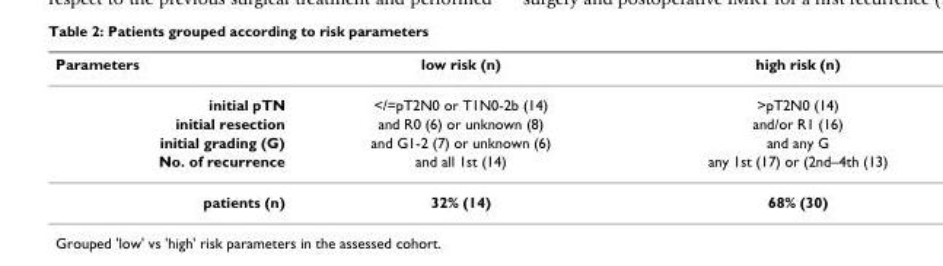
<table><thead><tr><td>Parameters</td><td>low risk (n)</td><td>high risk (n)</td></tr></thead><tbody><tr><td>initial pTN</td><td>&lt;/=pT2N0 or T1N0-2b (14)</td><td>&gt;pT2N0 (14)</td></tr><tr><td>initial resection</td><td>and R0 (6) or unknown (8)</td><td>and/or R1 (16)</td></tr><tr><td>initial grading (G)</td><td>and G1-2 (7) or unknown (6)</td><td>and any G</td></tr><tr><td>No. of recurrence</td><td>and all 1st (14)</td><td>any 1st (17) or (2nd–4th (13)</td></tr><tr><td>patients (n)</td><td>32% (14)</td><td>68% (30)</td></tr></tbody></table>